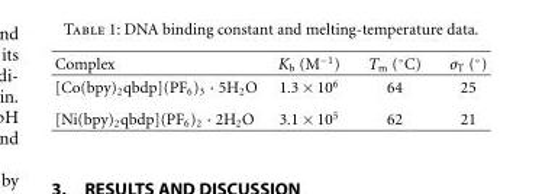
<table><tbody><tr><td>Complex</td><td>Kb (M−1)</td><td>Tm (◦C)</td><td>σT (◦)</td></tr><tr><td>[Co(bpy)<sub>2</sub>qbdp](PF<sub>6</sub>)<sub>3</sub> · 5H<sub>2</sub>O</td><td>1.3 × 10<sup>6</sup></td><td>64</td><td>25</td></tr><tr><td>[Ni(bpy)<sub>2</sub>qbdp](PF<sub>6</sub>)<sub>2</sub> · 2H<sub>2</sub>O</td><td>3.1 × 10<sup>5</sup></td><td>62</td><td>21</td></tr></tbody></table>